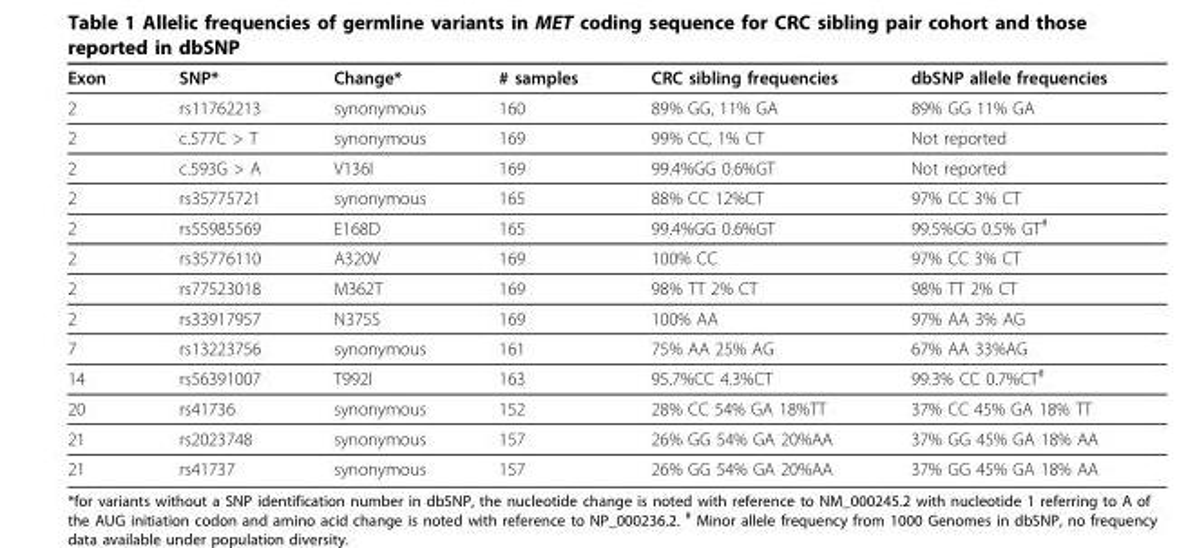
<table><thead><tr><td>Exon</td><td>SNP*</td><td>Change*</td><td># samples</td><td>CRC sibling frequencies</td><td>dbSNP allele frequencies</td></tr></thead><tbody><tr><td>2</td><td>rs11762213</td><td>synonymous</td><td>160</td><td>89% GG, 11% GA</td><td>89% GG 11% GA</td></tr><tr><td>2</td><td>c.577C &gt; T</td><td>synonymous</td><td>169</td><td>99% CC, 1% CT</td><td>Not reported</td></tr><tr><td>2</td><td>c.593G &gt; A</td><td>V136I</td><td>169</td><td>99.4%GG 0.6%GT</td><td>Not reported</td></tr><tr><td>2</td><td>rs35775721</td><td>synonymous</td><td>165</td><td>88% CC 12%CT</td><td>97% CC 3% CT</td></tr><tr><td>2</td><td>rs55985569</td><td>E168D</td><td>165</td><td>99.4%GG 0.6%GT</td><td>99.5%GG 0.5% GT<sup>#</sup></td></tr><tr><td>2</td><td>rs35776110</td><td>A320V</td><td>169</td><td>100% CC</td><td>97% CC 3% CT</td></tr><tr><td>2</td><td>rs77523018</td><td>M362T</td><td>169</td><td>98% TT 2% CT</td><td>98% TT 2% CT</td></tr><tr><td>2</td><td>rs33917957</td><td>N375S</td><td>169</td><td>100% AA</td><td>97% AA 3% AG</td></tr><tr><td>7</td><td>rs13223756</td><td>synonymous</td><td>161</td><td>75% AA 25% AG</td><td>67% AA 33%AG</td></tr><tr><td>14</td><td>rs56391007</td><td>T992I</td><td>163</td><td>95.7%CC 4.3%CT</td><td>99.3% CC 0.7%CT<sup>#</sup></td></tr><tr><td>20</td><td>rs41736</td><td>synonymous</td><td>152</td><td>28% CC 54% GA 18%TT</td><td>37% CC 45% GA 18% TT</td></tr><tr><td>21</td><td>rs2023748</td><td>synonymous</td><td>157</td><td>26% GG 54% GA 20%AA</td><td>37% GG 45% GA 18% AA</td></tr><tr><td>21</td><td>rs41737</td><td>synonymous</td><td>157</td><td>26% GG 54% GA 20%AA</td><td>37% GG 45% GA 18% AA</td></tr></tbody></table>